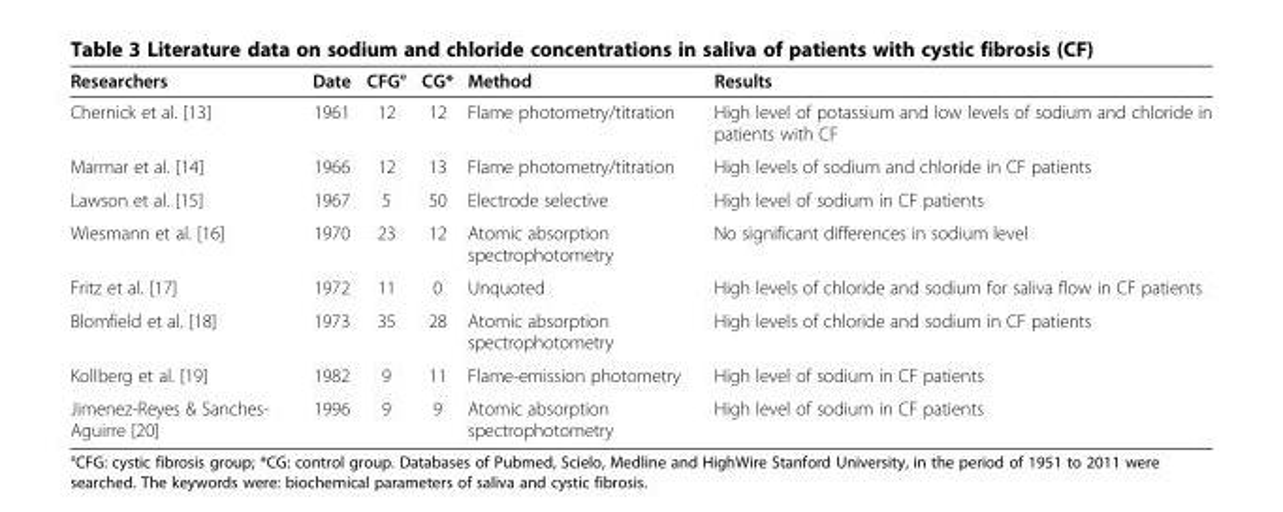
<table><thead><tr><td>Researchers</td><td>Date</td><td>CFG°</td><td>CG*</td><td>Method</td><td>Results</td></tr></thead><tbody><tr><td>Chernick et al. [13]</td><td>1961</td><td>12</td><td>12</td><td>Flame photometry/titration</td><td>High level of potassium and low levels of sodium and chloride in patients with CF</td></tr><tr><td>Marmar et al. [14]</td><td>1966</td><td>12</td><td>13</td><td>Flame photometry/titration</td><td>High levels of sodium and chloride in CF patients</td></tr><tr><td>Lawson et al. [15]</td><td>1967</td><td>5</td><td>50</td><td>Electrode selective</td><td>High level of sodium in CF patients</td></tr><tr><td>Wiesmann et al. [16]</td><td>1970</td><td>23</td><td>12</td><td>Atomic absorption spectrophotometry</td><td>No significant differences in sodium level</td></tr><tr><td>Fritz et al. [17]</td><td>1972</td><td>11</td><td>0</td><td>Unquoted</td><td>High levels of chloride and sodium for saliva flow in CF patients</td></tr><tr><td>Blomfield et al. [18]</td><td>1973</td><td>35</td><td>28</td><td>Atomic absorption spectrophotometry</td><td>High levels of chloride and sodium in CF patients</td></tr><tr><td>Kollberg et al. [19]</td><td>1982</td><td>9</td><td>11</td><td>Flame-emission photometry</td><td>High level of sodium in CF patients</td></tr><tr><td>Jimenez-Reyes &amp; Sanches- Aguirre [20]</td><td>1996</td><td>9</td><td>9</td><td>Atomic absorption spectrophotometry</td><td>High level of sodium in CF patients</td></tr></tbody></table>